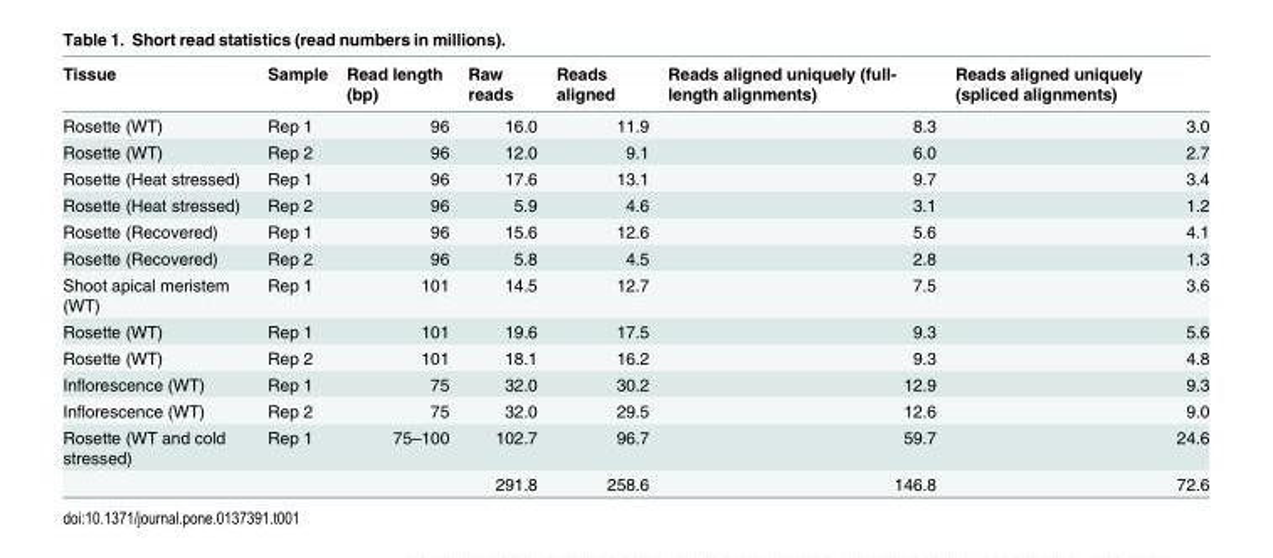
<table><thead><tr><td>Tissue</td><td>Sample</td><td>Read length (bp)</td><td>Raw reads</td><td>Reads aligned</td><td>Reads aligned uniquely (full- length alignments)</td><td>Reads aligned uniquely (spliced alignments)</td></tr></thead><tbody><tr><td>Rosette (WT)</td><td>Rep 1</td><td>96</td><td>16.0</td><td>11.9</td><td>8.3</td><td>3.0</td></tr><tr><td>Rosette (WT)</td><td>Rep 2</td><td>96</td><td>12.0</td><td>9.1</td><td>6.0</td><td>2.7</td></tr><tr><td>Rosette (Heat stressed)</td><td>Rep 1</td><td>96</td><td>17.6</td><td>13.1</td><td>9.7</td><td>3.4</td></tr><tr><td>Rosette (Heat stressed)</td><td>Rep 2</td><td>96</td><td>5.9</td><td>4.6</td><td>3.1</td><td>1.2</td></tr><tr><td>Rosette (Recovered)</td><td>Rep 1</td><td>96</td><td>15.6</td><td>12.6</td><td>5.6</td><td>4.1</td></tr><tr><td>Rosette (Recovered)</td><td>Rep 2</td><td>96</td><td>5.8</td><td>4.5</td><td>2.8</td><td>1.3</td></tr><tr><td>Shoot apical meristem (WT)</td><td>Rep 1</td><td>101</td><td>14.5</td><td>12.7</td><td>7.5</td><td>3.6</td></tr><tr><td>Rosette (WT)</td><td>Rep 1</td><td>101</td><td>19.6</td><td>17.5</td><td>9.3</td><td>5.6</td></tr><tr><td>Rosette (WT)</td><td>Rep 2</td><td>101</td><td>18.1</td><td>16.2</td><td>9.3</td><td>4.8</td></tr><tr><td>Inflorescence (WT)</td><td>Rep 1</td><td>75</td><td>32.0</td><td>30.2</td><td>12.9</td><td>9.3</td></tr><tr><td>Inflorescence (WT)</td><td>Rep 2</td><td>75</td><td>32.0</td><td>29.5</td><td>12.6</td><td>9.0</td></tr><tr><td rowspan="2">Rosette (WT and cold stressed)</td><td>Rep 1</td><td>75–100</td><td>102.7</td><td>96.7</td><td>59.7</td><td>24.6</td></tr><tr><td></td><td></td><td>291.8</td><td>258.6</td><td>146.8</td><td>72.6</td></tr></tbody></table>